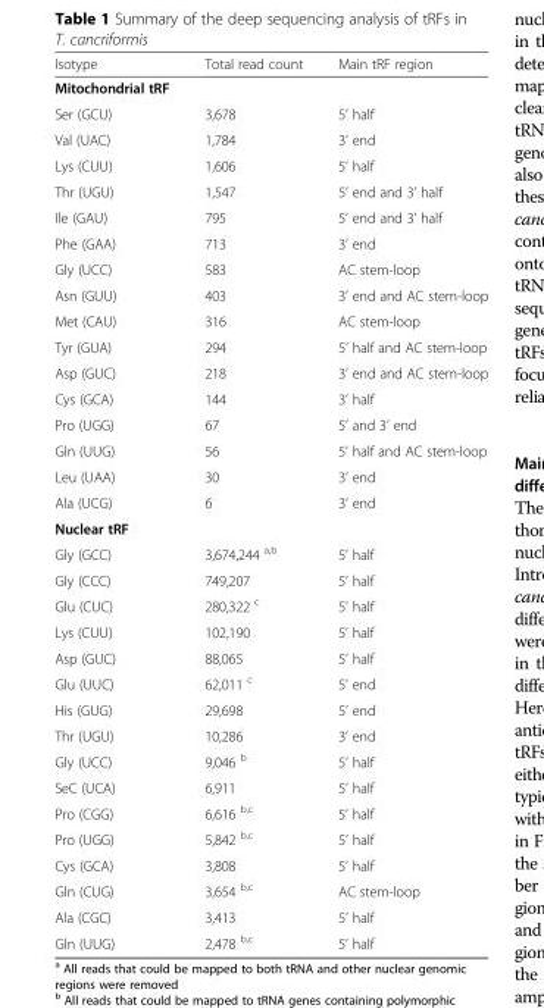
<table><thead><tr><td>Isotype</td><td>Total read count</td><td>Main tRF region</td></tr></thead><tbody><tr><td colspan="3">Mitochondrial tRF</td></tr><tr><td>Ser (GCU)</td><td>3,678</td><td>5’ half</td></tr><tr><td>Val (UAC)</td><td>1,784</td><td>3’ end</td></tr><tr><td>Lys (CUU)</td><td>1,606</td><td>5’ half</td></tr><tr><td>Thr (UGU)</td><td>1,547</td><td>5’ end and 3’ half</td></tr><tr><td>Ile (GAU)</td><td>795</td><td>5’ end and 3’ half</td></tr><tr><td>Phe (GAA)</td><td>713</td><td>3’ end</td></tr><tr><td>Gly (UCC)</td><td>583</td><td>AC stem-loop</td></tr><tr><td>Asn (GUU)</td><td>403</td><td>3’ end and AC stem-loop</td></tr><tr><td>Met (CAU)</td><td>316</td><td>AC stem-loop</td></tr><tr><td>Tyr (GUA)</td><td>294</td><td>5’ half and AC stem-loop</td></tr><tr><td>Asp (GUC)</td><td>218</td><td>3’ end and AC stem-loop</td></tr><tr><td>Cys (GCA)</td><td>144</td><td>3’ half</td></tr><tr><td>Pro (UGG)</td><td>67</td><td>5’ and 3’ end</td></tr><tr><td>Gln (UUG)</td><td>56</td><td>5’ half and AC stem-loop</td></tr><tr><td>Leu (UAA)</td><td>30</td><td>3’ end</td></tr><tr><td>Ala (UCG)</td><td>6</td><td>3’ end</td></tr><tr><td colspan="3">Nuclear tRF</td></tr><tr><td>Gly (GCC)</td><td>3,674,244 <sup>a,b</sup></td><td>5’ half</td></tr><tr><td>Gly (CCC)</td><td>749,207</td><td>5’ half</td></tr><tr><td>Glu (CUC)</td><td>280,322 <sup>c</sup></td><td>5’ half</td></tr><tr><td>Lys (CUU)</td><td>102,190</td><td>5’ half</td></tr><tr><td>Asp (GUC)</td><td>88,065</td><td>5’ half</td></tr><tr><td>Glu (UUC)</td><td>62,011 <sup>c</sup></td><td>5’ end</td></tr><tr><td>His (GUG)</td><td>29,698</td><td>5’ end</td></tr><tr><td>Thr (UGU)</td><td>10,286</td><td>3’ end</td></tr><tr><td>Gly (UCC)</td><td>9,046 <sup>b</sup></td><td>5’ half</td></tr><tr><td>SeC (UCA)</td><td>6,911</td><td>5’ half</td></tr><tr><td>Pro (CGG)</td><td>6,616 <sup>b,c</sup></td><td>5’ half</td></tr><tr><td>Pro (UGG)</td><td>5,842 <sup>b,c</sup></td><td>5’ half</td></tr><tr><td>Cys (GCA)</td><td>3,808</td><td>5’ half</td></tr><tr><td>Gln (CUG)</td><td>3,654 <sup>b,c</sup></td><td>AC stem-loop</td></tr><tr><td>Ala (CGC)</td><td>3,413</td><td>5’ half</td></tr><tr><td>Gln (UUG)</td><td>2,478 <sup>b,c</sup></td><td>5’ half</td></tr></tbody></table>